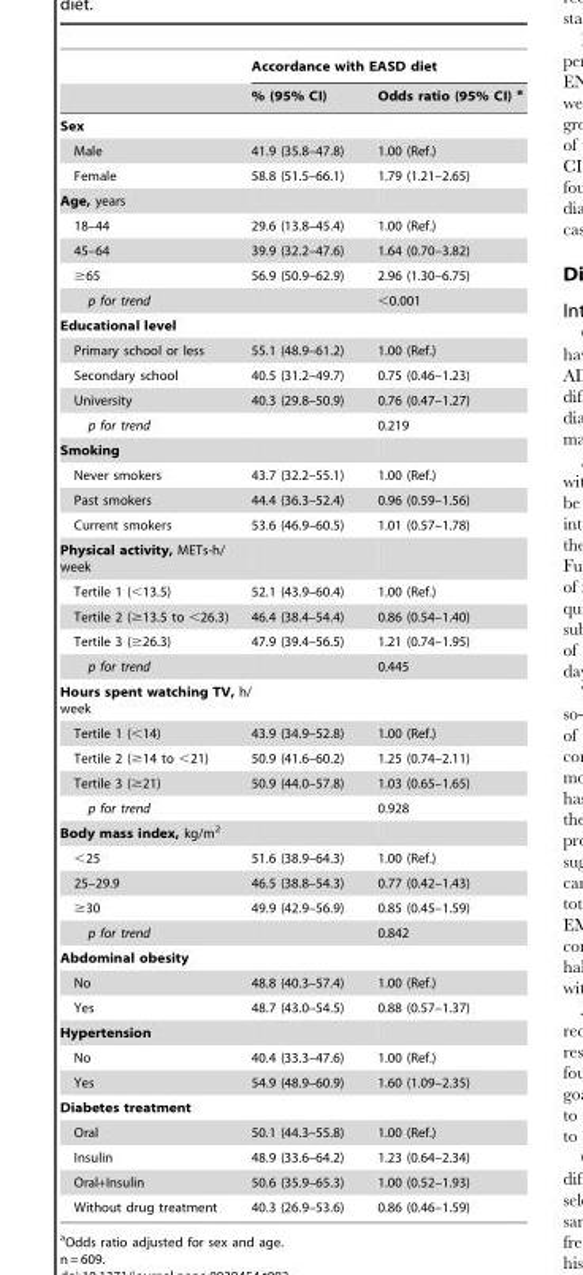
<table><thead><tr><td rowspan="2"></td><td colspan="2">Accordance with EASD diet</td></tr><tr><td>% (95% CI)</td><td>Odds ratio (95% CI) a</td></tr></thead><tbody><tr><td colspan="3">Sex</td></tr><tr><td>Male</td><td>41.9 (35.8–47.8)</td><td>1.00 (Ref.)</td></tr><tr><td>Female</td><td>58.8 (51.5–66.1)</td><td>1.79 (1.21–2.65)</td></tr><tr><td colspan="3">Age, years</td></tr><tr><td>18–44</td><td>29.6 (13.8–45.4)</td><td>1.00 (Ref.)</td></tr><tr><td>45–64</td><td>39.9 (32.2–47.6)</td><td>1.64 (0.70–3.82)</td></tr><tr><td>≥65</td><td>56.9 (50.9–62.9)</td><td>2.96 (1.30–6.75)</td></tr><tr><td>p for trend</td><td></td><td>&lt;0.001</td></tr><tr><td colspan="3">Educational level</td></tr><tr><td>Primary school or less</td><td>55.1 (48.9–61.2)</td><td>1.00 (Ref.)</td></tr><tr><td>Secondary school</td><td>40.5 (31.2–49.7)</td><td>0.75 (0.46–1.23)</td></tr><tr><td>University</td><td>40.3 (29.8–50.9)</td><td>0.76 (0.47–1.27)</td></tr><tr><td>p for trend</td><td></td><td>0.219</td></tr><tr><td colspan="3">Smoking</td></tr><tr><td>Never smokers</td><td>43.7 (32.2–55.1)</td><td>1.00 (Ref.)</td></tr><tr><td>Past smokers</td><td>44.4 (36.3–52.4)</td><td>0.96 (0.59–1.56)</td></tr><tr><td>Current smokers</td><td>53.6 (46.9–60.5)</td><td>1.01 (0.57–1.78)</td></tr><tr><td colspan="3">Physical activity, METs-h/ week</td></tr><tr><td>Tertile 1 (&lt;13.5)</td><td>52.1 (43.9–60.4)</td><td>1.00 (Ref.)</td></tr><tr><td>Tertile 2 (≥13.5 to &lt;26.3)</td><td>46.4 (38.4–54.4)</td><td>0.86 (0.54–1.40)</td></tr><tr><td>Tertile 3 (≥26.3)</td><td>47.9 (39.4–56.5)</td><td>1.21 (0.74–1.95)</td></tr><tr><td>p for trend</td><td></td><td>0.445</td></tr><tr><td colspan="3">Hours spent watching TV, h/ week</td></tr><tr><td>Tertile 1 (&lt;14)</td><td>43.9 (34.9–52.8)</td><td>1.00 (Ref.)</td></tr><tr><td>Tertile 2 (≥14 to &lt;21)</td><td>50.9 (41.6–60.2)</td><td>1.25 (0.74–2.11)</td></tr><tr><td>Tertile 3 (≥21)</td><td>50.9 (44.0–57.8)</td><td>1.03 (0.65–1.65)</td></tr><tr><td>p for trend</td><td></td><td>0.928</td></tr><tr><td colspan="3">Body mass index, kg/m<sup>2</sup></td></tr><tr><td>&lt;25</td><td>51.6 (38.9–64.3)</td><td>1.00 (Ref.)</td></tr><tr><td>25–29.9</td><td>46.5 (38.8–54.3)</td><td>0.77 (0.42–1.43)</td></tr><tr><td>≥30</td><td>49.9 (42.9–56.9)</td><td>0.85 (0.45–1.59)</td></tr><tr><td>p for trend</td><td></td><td>0.842</td></tr><tr><td colspan="3">Abdominal obesity</td></tr><tr><td>No</td><td>48.8 (40.3–57.4)</td><td>1.00 (Ref.)</td></tr><tr><td>Yes</td><td>48.7 (43.0–54.5)</td><td>0.88 (0.57–1.37)</td></tr><tr><td colspan="3">Hypertension</td></tr><tr><td>No</td><td>40.4 (33.3–47.6)</td><td>1.00 (Ref.)</td></tr><tr><td>Yes</td><td>54.9 (48.9–60.9)</td><td>1.60 (1.09–2.35)</td></tr><tr><td colspan="3">Diabetes treatment</td></tr><tr><td>Oral</td><td>50.1 (44.3–55.8)</td><td>1.00 (Ref.)</td></tr><tr><td>Insulin</td><td>48.9 (33.6–64.2)</td><td>1.23 (0.64–2.34)</td></tr><tr><td>Oral+Insulin</td><td>50.6 (35.9–65.3)</td><td>1.00 (0.52–1.93)</td></tr><tr><td>Without drug treatment</td><td>40.3 (26.9–53.6)</td><td>0.86 (0.46–1.59)</td></tr></tbody></table>